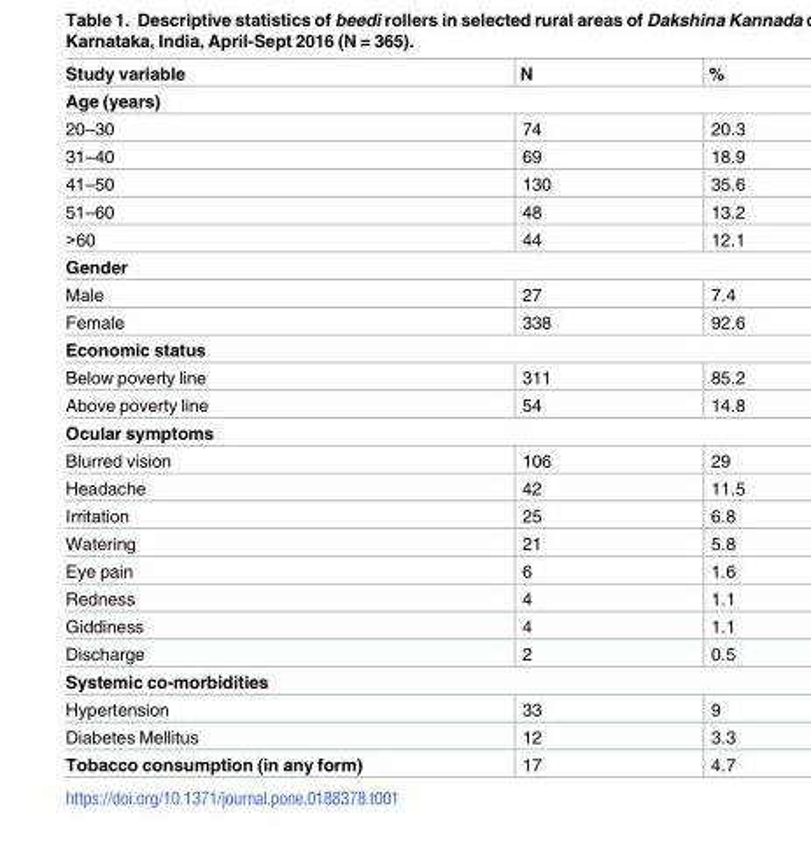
<table><thead><tr><td>Study variable</td><td>N</td><td>%</td></tr></thead><tbody><tr><td colspan="3">Age (years)</td></tr><tr><td>20–30</td><td>74</td><td>20.3</td></tr><tr><td>31–40</td><td>69</td><td>18.9</td></tr><tr><td>41–50</td><td>130</td><td>35.6</td></tr><tr><td>51–60</td><td>48</td><td>13.2</td></tr><tr><td>&gt;60</td><td>44</td><td>12.1</td></tr><tr><td colspan="3">Gender</td></tr><tr><td>Male</td><td>27</td><td>7.4</td></tr><tr><td>Female</td><td>338</td><td>92.6</td></tr><tr><td colspan="3">Economic status</td></tr><tr><td>Below poverty line</td><td>311</td><td>85.2</td></tr><tr><td>Above poverty line</td><td>54</td><td>14.8</td></tr><tr><td colspan="3">Ocular symptoms</td></tr><tr><td>Blurred vision</td><td>106</td><td>29</td></tr><tr><td>Headache</td><td>42</td><td>11.5</td></tr><tr><td>Irritation</td><td>25</td><td>6.8</td></tr><tr><td>Watering</td><td>21</td><td>5.8</td></tr><tr><td>Eye pain</td><td>6</td><td>1.6</td></tr><tr><td>Redness</td><td>4</td><td>1.1</td></tr><tr><td>Giddiness</td><td>4</td><td>1.1</td></tr><tr><td>Discharge</td><td>2</td><td>0.5</td></tr><tr><td colspan="3">Systemic co-morbidities</td></tr><tr><td>Hypertension</td><td>33</td><td>9</td></tr><tr><td>Diabetes Mellitus</td><td>12</td><td>3.3</td></tr><tr><td>Tobacco consumption (in any form)</td><td>17</td><td>4.7</td></tr></tbody></table>